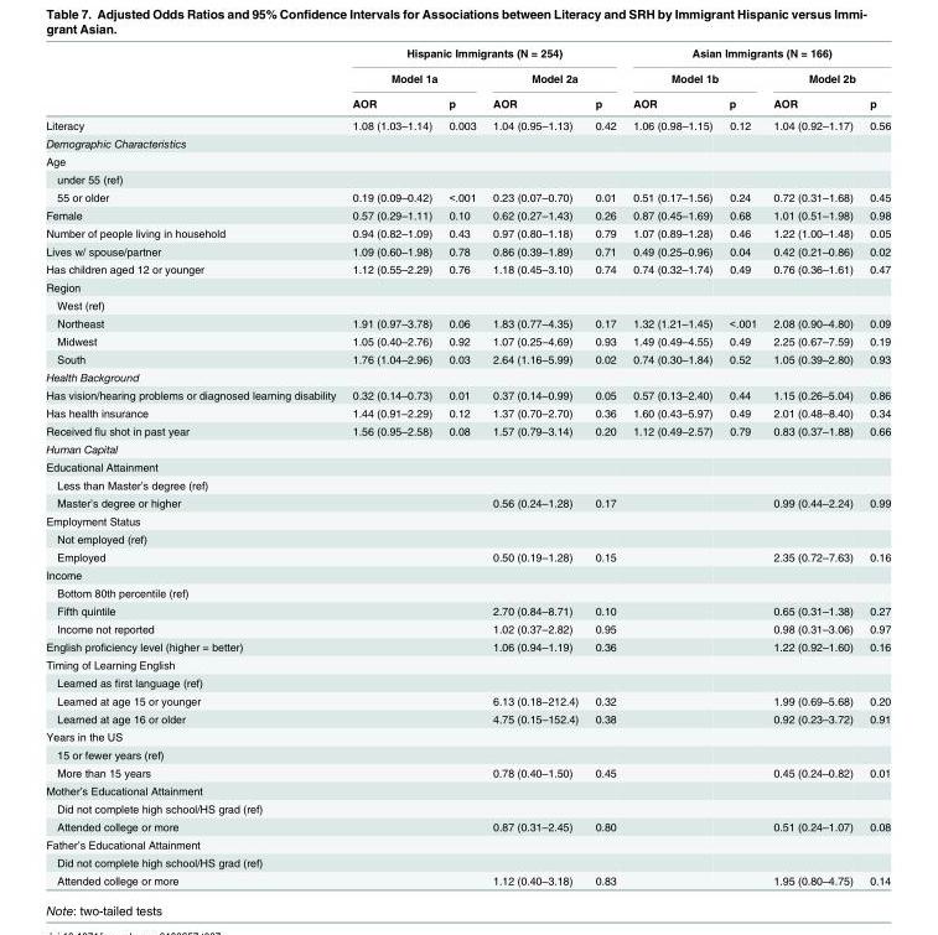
<table><thead><tr><td rowspan="3"></td><td colspan="4">Hispanic Immigrants (N = 254)</td><td colspan="4">Asian Immigrants (N = 166)</td></tr><tr><td colspan="2">Model 1a</td><td colspan="2">Model 2a</td><td colspan="2">Model 1b</td><td colspan="2">Model 2b</td></tr><tr><td>AOR</td><td>p</td><td>AOR</td><td>p</td><td>AOR</td><td>p</td><td>AOR</td><td>p</td></tr></thead><tbody><tr><td>Literacy</td><td>1.08 (1.03–1.14)</td><td>0.003</td><td>1.04 (0.95–1.13)</td><td>0.42</td><td>1.06 (0.98–1.15)</td><td>0.12</td><td>1.04 (0.92–1.17)</td><td>0.56</td></tr><tr><td colspan="9">Demographic Characteristics</td></tr><tr><td colspan="9">Age</td></tr><tr><td colspan="9">under 55 (ref)</td></tr><tr><td>55 or older</td><td>0.19 (0.09–0.42)</td><td>&lt;.001</td><td>0.23 (0.07–0.70)</td><td>0.01</td><td>0.51 (0.17–1.56)</td><td>0.24</td><td>0.72 (0.31–1.68)</td><td>0.45</td></tr><tr><td>Female</td><td>0.57 (0.29–1.11)</td><td>0.10</td><td>0.62 (0.27–1.43)</td><td>0.26</td><td>0.87 (0.45–1.69)</td><td>0.68</td><td>1.01 (0.51–1.98)</td><td>0.98</td></tr><tr><td>Number of people living in household</td><td>0.94 (0.82–1.09)</td><td>0.43</td><td>0.97 (0.80–1.18)</td><td>0.79</td><td>1.07 (0.89–1.28)</td><td>0.46</td><td>1.22 (1.00–1.48)</td><td>0.05</td></tr><tr><td>Lives w/ spouse/partner</td><td>1.09 (0.60–1.98)</td><td>0.78</td><td>0.86 (0.39–1.89)</td><td>0.71</td><td>0.49 (0.25–0.96)</td><td>0.04</td><td>0.42 (0.21–0.86)</td><td>0.02</td></tr><tr><td>Has children aged 12 or younger</td><td>1.12 (0.55–2.29)</td><td>0.76</td><td>1.18 (0.45–3.10)</td><td>0.74</td><td>0.74 (0.32–1.74)</td><td>0.49</td><td>0.76 (0.36–1.61)</td><td>0.47</td></tr><tr><td colspan="9">Region</td></tr><tr><td colspan="9">West (ref)</td></tr><tr><td>Northeast</td><td>1.91 (0.97–3.78)</td><td>0.06</td><td>1.83 (0.77–4.35)</td><td>0.17</td><td>1.32 (1.21–1.45)</td><td>&lt;.001</td><td>2.08 (0.90–4.80)</td><td>0.09</td></tr><tr><td>Midwest</td><td>1.05 (0.40–2.76)</td><td>0.92</td><td>1.07 (0.25–4.69)</td><td>0.93</td><td>1.49 (0.49–4.55)</td><td>0.49</td><td>2.25 (0.67–7.59)</td><td>0.19</td></tr><tr><td>South</td><td>1.76 (1.04–2.96)</td><td>0.03</td><td>2.64 (1.16–5.99)</td><td>0.02</td><td>0.74 (0.30–1.84)</td><td>0.52</td><td>1.05 (0.39–2.80)</td><td>0.93</td></tr><tr><td colspan="9">Health Background</td></tr><tr><td>Has vision/hearing problems or diagnosed learning disability</td><td>0.32 (0.14–0.73)</td><td>0.01</td><td>0.37 (0.14–0.99)</td><td>0.05</td><td>0.57 (0.13–2.40)</td><td>0.44</td><td>1.15 (0.26–5.04)</td><td>0.86</td></tr><tr><td>Has health insurance</td><td>1.44 (0.91–2.29)</td><td>0.12</td><td>1.37 (0.70–2.70)</td><td>0.36</td><td>1.60 (0.43–5.97)</td><td>0.49</td><td>2.01 (0.48–8.40)</td><td>0.34</td></tr><tr><td>Received flu shot in past year</td><td>1.56 (0.95–2.58)</td><td>0.08</td><td>1.57 (0.79–3.14)</td><td>0.20</td><td>1.12 (0.49–2.57)</td><td>0.79</td><td>0.83 (0.37–1.88)</td><td>0.66</td></tr><tr><td colspan="9">Human Capital</td></tr><tr><td colspan="9">Educational Attainment</td></tr><tr><td colspan="9">Less than Master’s degree (ref)</td></tr><tr><td>Master’s degree or higher</td><td></td><td></td><td>0.56 (0.24–1.28)</td><td>0.17</td><td></td><td></td><td>0.99 (0.44–2.24)</td><td>0.99</td></tr><tr><td colspan="9">Employment Status</td></tr><tr><td colspan="9">Not employed (ref)</td></tr><tr><td>Employed</td><td></td><td></td><td>0.50 (0.19–1.28)</td><td>0.15</td><td></td><td></td><td>2.35 (0.72–7.63)</td><td>0.16</td></tr><tr><td colspan="9">Income</td></tr><tr><td colspan="9">Bottom 80th percentile (ref)</td></tr><tr><td>Fifth quintile</td><td></td><td></td><td>2.70 (0.84–8.71)</td><td>0.10</td><td></td><td></td><td>0.65 (0.31–1.38)</td><td>0.27</td></tr><tr><td>Income not reported</td><td></td><td></td><td>1.02 (0.37–2.82)</td><td>0.95</td><td></td><td></td><td>0.98 (0.31–3.06)</td><td>0.97</td></tr><tr><td>English proficiency level (higher = better)</td><td></td><td></td><td>1.06 (0.94–1.19)</td><td>0.36</td><td></td><td></td><td>1.22 (0.92–1.60)</td><td>0.16</td></tr><tr><td colspan="9">Timing of Learning English</td></tr><tr><td colspan="9">Learned as first language (ref)</td></tr><tr><td>Learned at age 15 or younger</td><td></td><td></td><td>6.13 (0.18–212.4)</td><td>0.32</td><td></td><td></td><td>1.99 (0.69–5.68)</td><td>0.20</td></tr><tr><td>Learned at age 16 or older</td><td></td><td></td><td>4.75 (0.15–152.4)</td><td>0.38</td><td></td><td></td><td>0.92 (0.23–3.72)</td><td>0.91</td></tr><tr><td colspan="9">Years in the US</td></tr><tr><td colspan="9">15 or fewer years (ref)</td></tr><tr><td>More than 15 years</td><td></td><td></td><td>0.78 (0.40–1.50)</td><td>0.45</td><td></td><td></td><td>0.45 (0.24–0.82)</td><td>0.01</td></tr><tr><td colspan="9">Mother’s Educational Attainment</td></tr><tr><td colspan="9">Did not complete high school/HS grad (ref)</td></tr><tr><td>Attended college or more</td><td></td><td></td><td>0.87 (0.31–2.45)</td><td>0.80</td><td></td><td></td><td>0.51 (0.24–1.07)</td><td>0.08</td></tr><tr><td colspan="9">Father’s Educational Attainment</td></tr><tr><td colspan="9">Did not complete high school/HS grad (ref)</td></tr><tr><td>Attended college or more</td><td></td><td></td><td>1.12 (0.40–3.18)</td><td>0.83</td><td></td><td></td><td>1.95 (0.80–4.75)</td><td>0.14</td></tr></tbody></table>